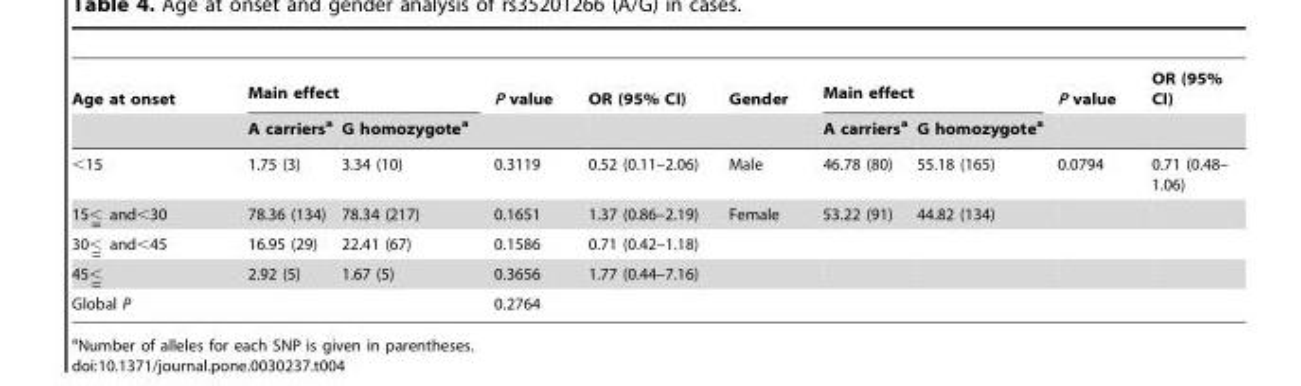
<table><thead><tr><td rowspan="2">Age at onset</td><td colspan="2">Main effect</td><td rowspan="2">P value</td><td rowspan="2">OR (95% CI)</td><td rowspan="2">Gender</td><td colspan="2">Main effect</td><td rowspan="2">P value</td><td rowspan="2">OR (95% CI)</td></tr><tr><td>A carriers<sup>a</sup></td><td>G homozygote<sup>a</sup></td><td>A carriers<sup>a</sup></td><td>G homozygote<sup>a</sup></td></tr></thead><tbody><tr><td>&lt;15</td><td>1.75 (3)</td><td>3.34 (10)</td><td>0.3119</td><td>0.52 (0.11–2.06)</td><td>Male</td><td>46.78 (80)</td><td>55.18 (165)</td><td>0.0794</td><td>0.71 (0.48– 1.06)</td></tr><tr><td>15,= and,30</td><td>78.36 (134)</td><td>78.34 (217)</td><td>0.1651</td><td>1.37 (0.86–2.19)</td><td>Female</td><td>53.22 (91)</td><td>44.82 (134)</td><td></td><td></td></tr><tr><td>30,= and,45</td><td>16.95 (29)</td><td>22.41 (67)</td><td>0.1586</td><td>0.71 (0.42–1.18)</td><td></td><td></td><td></td><td></td><td></td></tr><tr><td>45,=</td><td>2.92 (5)</td><td>1.67 (5)</td><td>0.3656</td><td>1.77 (0.44–7.16)</td><td></td><td></td><td></td><td></td><td></td></tr><tr><td>Global P</td><td></td><td></td><td>0.2764</td><td></td><td></td><td></td><td></td><td></td><td></td></tr></tbody></table>